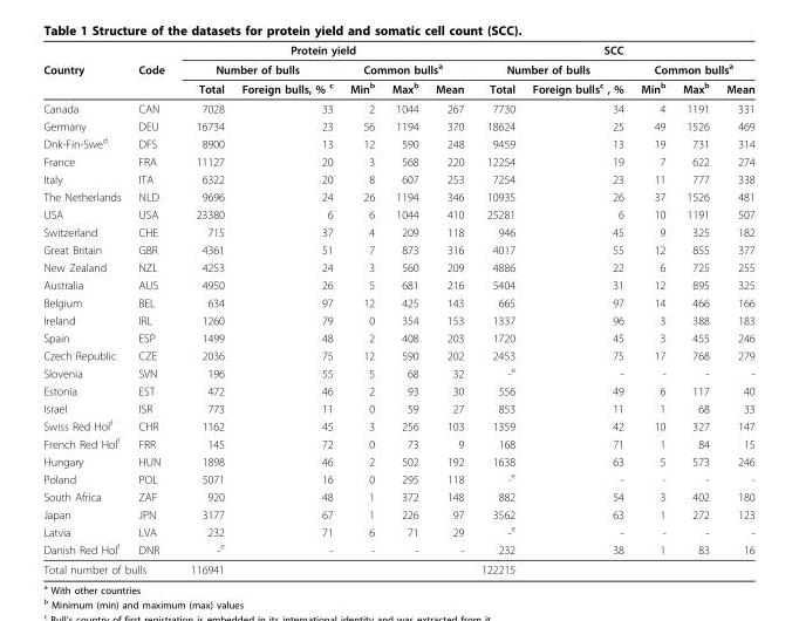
<table><thead><tr><td rowspan="3">Country</td><td rowspan="3">Code</td><td colspan="5">Protein yield</td><td colspan="5">SCC</td></tr><tr><td colspan="2">Number of bulls</td><td colspan="3">Common bulls<sup>a</sup></td><td colspan="2">Number of bulls</td><td colspan="3">Common bulls<sup>a</sup></td></tr><tr><td>Total</td><td>Foreign bulls, % <sup>c</sup></td><td>Min<sup>b</sup></td><td>Max<sup>b</sup></td><td>Mean</td><td>Total</td><td>Foreign bulls<sup>c</sup> , %</td><td>Min<sup>b</sup></td><td>Max<sup>b</sup></td><td>Mean</td></tr></thead><tbody><tr><td>Canada</td><td>CAN</td><td>7028</td><td>33</td><td>2</td><td>1044</td><td>267</td><td>7730</td><td>34</td><td>4</td><td>1191</td><td>331</td></tr><tr><td>Germany</td><td>DEU</td><td>16734</td><td>23</td><td>56</td><td>1194</td><td>370</td><td>18624</td><td>25</td><td>49</td><td>1526</td><td>469</td></tr><tr><td>Dnk-Fin-Swe<sup>d</sup></td><td>DFS</td><td>8900</td><td>13</td><td>12</td><td>590</td><td>248</td><td>9459</td><td>13</td><td>19</td><td>731</td><td>314</td></tr><tr><td>France</td><td>FRA</td><td>11127</td><td>20</td><td>3</td><td>568</td><td>220</td><td>12254</td><td>19</td><td>7</td><td>622</td><td>274</td></tr><tr><td>Italy</td><td>ITA</td><td>6322</td><td>20</td><td>8</td><td>607</td><td>253</td><td>7254</td><td>23</td><td>11</td><td>777</td><td>338</td></tr><tr><td>The Netherlands</td><td>NLD</td><td>9696</td><td>24</td><td>26</td><td>1194</td><td>346</td><td>10935</td><td>26</td><td>37</td><td>1526</td><td>481</td></tr><tr><td>USA</td><td>USA</td><td>23380</td><td>6</td><td>6</td><td>1044</td><td>410</td><td>25281</td><td>6</td><td>10</td><td>1191</td><td>507</td></tr><tr><td>Switzerland</td><td>CHE</td><td>715</td><td>37</td><td>4</td><td>209</td><td>118</td><td>946</td><td>45</td><td>9</td><td>325</td><td>182</td></tr><tr><td>Great Britain</td><td>GBR</td><td>4361</td><td>51</td><td>7</td><td>873</td><td>316</td><td>4017</td><td>55</td><td>12</td><td>855</td><td>377</td></tr><tr><td>New Zealand</td><td>NZL</td><td>4253</td><td>24</td><td>3</td><td>560</td><td>209</td><td>4886</td><td>22</td><td>6</td><td>725</td><td>255</td></tr><tr><td>Australia</td><td>AUS</td><td>4950</td><td>26</td><td>5</td><td>681</td><td>216</td><td>5404</td><td>31</td><td>12</td><td>895</td><td>325</td></tr><tr><td>Belgium</td><td>BEL</td><td>634</td><td>97</td><td>12</td><td>425</td><td>143</td><td>665</td><td>97</td><td>14</td><td>466</td><td>166</td></tr><tr><td>Ireland</td><td>IRL</td><td>1260</td><td>79</td><td>0</td><td>354</td><td>153</td><td>1337</td><td>96</td><td>3</td><td>388</td><td>183</td></tr><tr><td>Spain</td><td>ESP</td><td>1499</td><td>48</td><td>2</td><td>408</td><td>203</td><td>1720</td><td>45</td><td>3</td><td>455</td><td>246</td></tr><tr><td>Czech Republic</td><td>CZE</td><td>2036</td><td>75</td><td>12</td><td>590</td><td>202</td><td>2453</td><td>75</td><td>17</td><td>768</td><td>279</td></tr><tr><td>Slovenia</td><td>SVN</td><td>196</td><td>55</td><td>5</td><td>68</td><td>32</td><td>-<sup>e</sup></td><td>-</td><td>-</td><td>-</td><td>-</td></tr><tr><td>Estonia</td><td>EST</td><td>472</td><td>46</td><td>2</td><td>93</td><td>30</td><td>556</td><td>49</td><td>6</td><td>117</td><td>40</td></tr><tr><td>Israel</td><td>ISR</td><td>773</td><td>11</td><td>0</td><td>59</td><td>27</td><td>853</td><td>11</td><td>1</td><td>68</td><td>33</td></tr><tr><td>Swiss Red Hol<sup>f</sup></td><td>CHR</td><td>1162</td><td>45</td><td>3</td><td>256</td><td>103</td><td>1359</td><td>42</td><td>10</td><td>327</td><td>147</td></tr><tr><td>French Red Hol<sup>f</sup></td><td>FRR</td><td>145</td><td>72</td><td>0</td><td>73</td><td>9</td><td>168</td><td>71</td><td>1</td><td>84</td><td>15</td></tr><tr><td>Hungary</td><td>HUN</td><td>1898</td><td>46</td><td>2</td><td>502</td><td>192</td><td>1638</td><td>63</td><td>5</td><td>573</td><td>246</td></tr><tr><td>Poland</td><td>POL</td><td>5071</td><td>16</td><td>0</td><td>295</td><td>118</td><td>-<sup>e</sup></td><td>-</td><td>-</td><td>-</td><td>-</td></tr><tr><td>South Africa</td><td>ZAF</td><td>920</td><td>48</td><td>1</td><td>372</td><td>148</td><td>882</td><td>54</td><td>3</td><td>402</td><td>180</td></tr><tr><td>Japan</td><td>JPN</td><td>3177</td><td>67</td><td>1</td><td>226</td><td>97</td><td>3562</td><td>63</td><td>1</td><td>272</td><td>123</td></tr><tr><td>Latvia</td><td>LVA</td><td>232</td><td>71</td><td>6</td><td>71</td><td>29</td><td>-<sup>e</sup></td><td>-</td><td>-</td><td>-</td><td>-</td></tr><tr><td>Danish Red Hol<sup>f</sup></td><td>DNR</td><td>-<sup>e</sup></td><td>-</td><td>-</td><td>-</td><td>-</td><td>232</td><td>38</td><td>1</td><td>83</td><td>16</td></tr><tr><td colspan="2">Total number of bulls</td><td>116941</td><td></td><td></td><td></td><td></td><td>122215</td><td></td><td></td><td></td><td></td></tr></tbody></table>